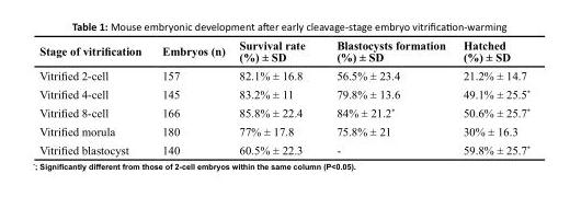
<table><thead><tr><td>Stage of vitrification</td><td>Embryos (n)</td><td>Survival rate (%) ± SD</td><td>Blastocysts formation (%) ± SD</td><td>Hatched (%) ± SD</td></tr></thead><tbody><tr><td>Vitrified 2-cell</td><td>157</td><td>82.1% ± 16.8</td><td>56.5% ± 23.4</td><td>21.2% ± 14.7</td></tr><tr><td>Vitrified 4-cell</td><td>145</td><td>83.2% ± 11</td><td>79.8% ± 13.6</td><td>49.1% ± 25.5*</td></tr><tr><td>Vitrified 8-cell</td><td>166</td><td>85.8% ± 22.4</td><td>84% ± 21.2*</td><td>50.6% ± 25.7*</td></tr><tr><td>Vitrified morula</td><td>180</td><td>77% ± 17.8</td><td>75.8% ± 21</td><td>30% ± 16.3</td></tr><tr><td>Vitrified blastocyst</td><td>140</td><td>60.5% ± 22.3</td><td>-</td><td>59.8% ± 25.7*</td></tr></tbody></table>